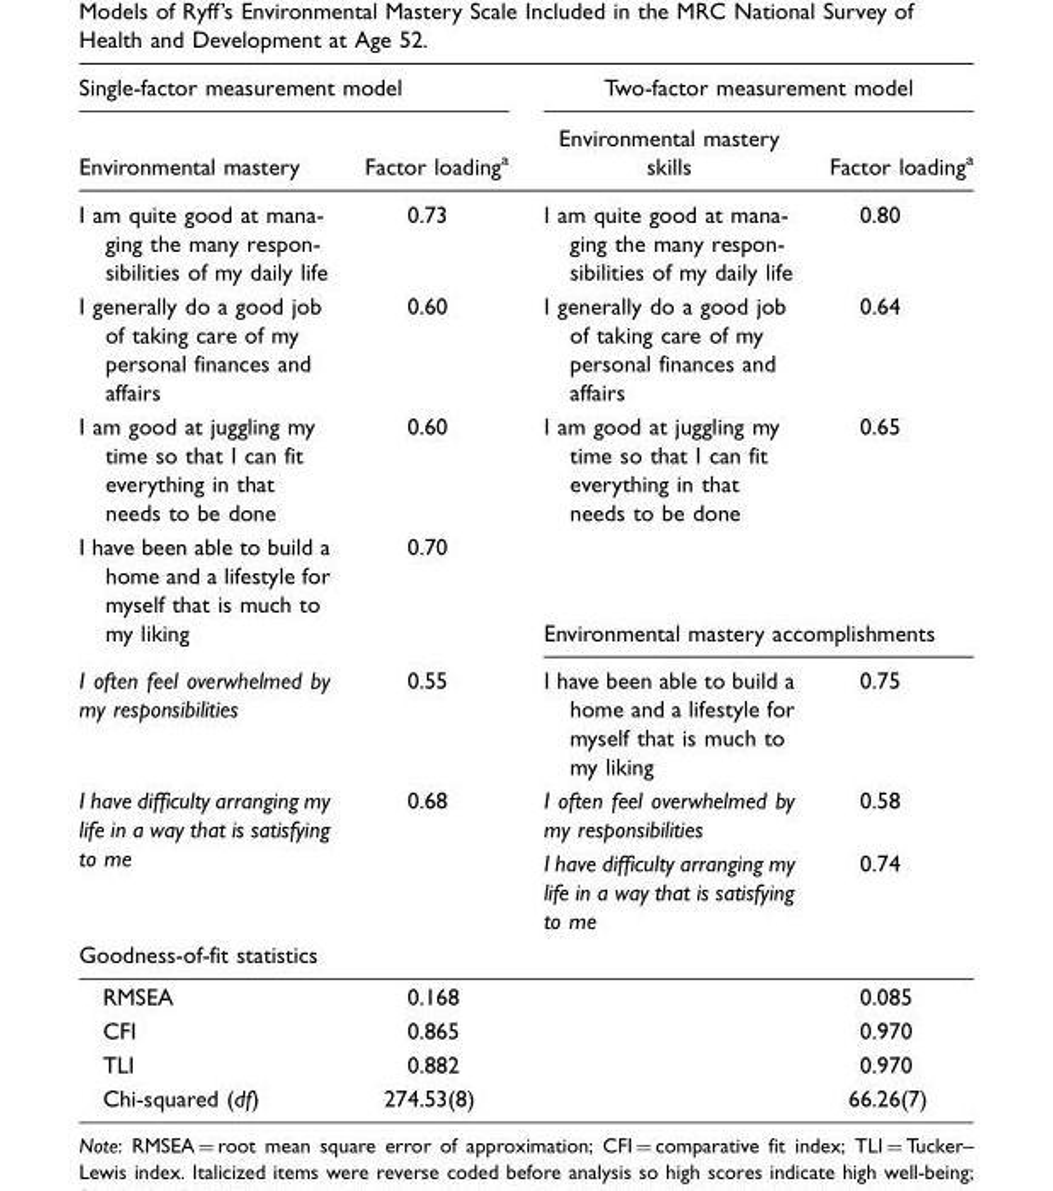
<table><thead><tr><td colspan="2">Single-factor measurement model</td><td colspan="2">Two-factor measurement model</td></tr><tr><td>Environmental mastery</td><td>Factor loading<sup>a</sup></td><td>Environmental mastery skills</td><td>Factor loading<sup>a</sup></td></tr></thead><tbody><tr><td>I am quite good at mana- ging the many respon- sibilities of my daily life</td><td>0.73</td><td>I am quite good at mana- ging the many respon- sibilities of my daily life</td><td>0.80</td></tr><tr><td>I generally do a good job of taking care of my personal finances and affairs</td><td>0.60</td><td>I generally do a good job of taking care of my personal finances and affairs</td><td>0.64</td></tr><tr><td>I am good at juggling my time so that I can fit everything in that needs to be done</td><td>0.60</td><td>I am good at juggling my time so that I can fit everything in that needs to be done</td><td>0.65</td></tr><tr><td>I have been able to build a home and a lifestyle for myself that is much to my liking</td><td>0.70</td><td colspan="2">Environmental mastery accomplishments</td></tr><tr><td>I often feel overwhelmed by my responsibilities</td><td>0.55</td><td>I have been able to build a home and a lifestyle for myself that is much to my liking</td><td>0.75</td></tr><tr><td rowspan="2">I have difficulty arranging my life in a way that is satisfying to me</td><td rowspan="2">0.68</td><td>I often feel overwhelmed by my responsibilities</td><td>0.58</td></tr><tr><td>I have difficulty arranging my life in a way that is satisfying to me</td><td>0.74</td></tr><tr><td colspan="4">Goodness-of-fit statistics</td></tr><tr><td>RMSEA</td><td>0.168</td><td></td><td>0.085</td></tr><tr><td>CFI</td><td>0.865</td><td></td><td>0.970</td></tr><tr><td>TLI</td><td>0.882</td><td></td><td>0.970</td></tr><tr><td>Chi-squared (df)</td><td>274.53(8)</td><td></td><td>66.26(7)</td></tr></tbody></table>